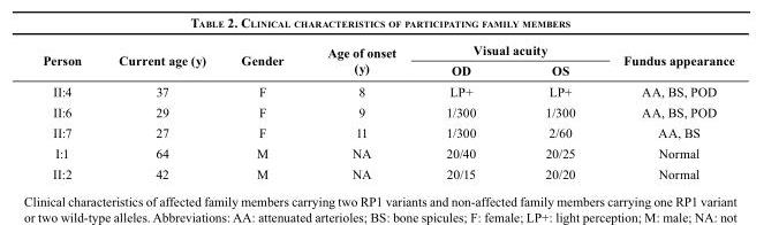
<table><thead><tr><td rowspan="2">Person</td><td rowspan="2">Current age (y)</td><td rowspan="2">Gender</td><td rowspan="2">Age of onset (y)</td><td colspan="2">Visual acuity</td><td rowspan="2">Fundus appearance</td></tr><tr><td>OD</td><td>OS</td></tr></thead><tbody><tr><td>II:4</td><td>37</td><td>F</td><td>8</td><td>LP+</td><td>LP+</td><td>AA, BS, POD</td></tr><tr><td>II:6</td><td>29</td><td>F</td><td>9</td><td>1/300</td><td>1/300</td><td>AA, BS, POD</td></tr><tr><td>II:7</td><td>27</td><td>F</td><td>11</td><td>1/300</td><td>2/60</td><td>AA, BS</td></tr><tr><td>I:1</td><td>64</td><td>M</td><td>NA</td><td>20/40</td><td>20/25</td><td>Normal</td></tr><tr><td>II:2</td><td>42</td><td>M</td><td>NA</td><td>20/15</td><td>20/20</td><td>Normal</td></tr></tbody></table>